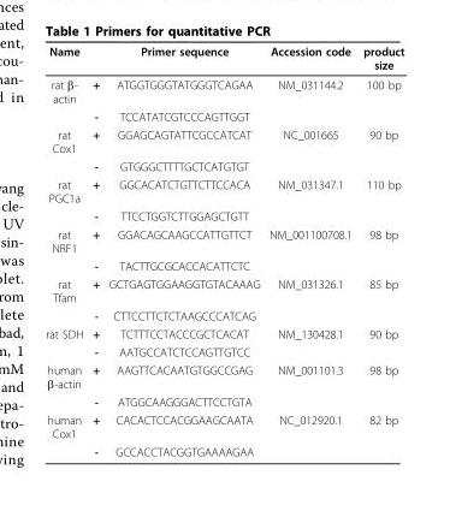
<table><thead><tr><td>Name</td><td></td><td>Primer sequence</td><td>Accession code</td><td>product size</td></tr></thead><tbody><tr><td rowspan="2">rat β- actin</td><td>+</td><td>ATGGTGGGTATGGGTCAGAA</td><td>NM_031144.2</td><td>100 bp</td></tr><tr><td>-</td><td>TCCATATCGTCCCAGTTGGT</td><td></td><td></td></tr><tr><td rowspan="2">rat Cox1</td><td>+</td><td>GGAGCAGTATTCGCCATCAT</td><td>NC_001665</td><td>90 bp</td></tr><tr><td>-</td><td>GTGGGCTTTTGCTCATGTGT</td><td></td><td></td></tr><tr><td rowspan="2">rat PGC1a</td><td>+</td><td>GGCACATCTGTTCTTCCACA</td><td>NM_031347.1</td><td>110 bp</td></tr><tr><td>-</td><td>TTCCTGGTCTTGGAGCTGTT</td><td></td><td></td></tr><tr><td rowspan="2">rat NRF1</td><td>+</td><td>GGACAGCAAGCCATTGTTCT</td><td>NM_001100708.1</td><td>98 bp</td></tr><tr><td>-</td><td>TACTTGCGCACCACATTCTC</td><td></td><td></td></tr><tr><td rowspan="2">rat Tfam</td><td>+</td><td>GCTGAGTGGAAGGTGTACAAAG</td><td>NM_031326.1</td><td>85 bp</td></tr><tr><td>-</td><td>CTTCCTTCTCTAAGCCCATCAG</td><td></td><td></td></tr><tr><td rowspan="2">rat SDH</td><td>+</td><td>TCTTTCCTACCCGCTCACAT</td><td>NM_130428.1</td><td>90 bp</td></tr><tr><td>-</td><td>AATGCCATCTCCAGTTGTCC</td><td></td><td></td></tr><tr><td rowspan="2">human β-actin</td><td>+</td><td>AAGTTCACAATGTGGCCGAG</td><td>NM_001101.3</td><td>98 bp</td></tr><tr><td>-</td><td>ATGGCAAGGGACTTCCTGTA</td><td></td><td></td></tr><tr><td rowspan="2">human Cox1</td><td>+</td><td>CACACTCCACGGAAGCAATA</td><td>NC_012920.1</td><td>82 bp</td></tr><tr><td>-</td><td>GCCACCTACGGTGAAAAGAA</td><td></td><td></td></tr></tbody></table>